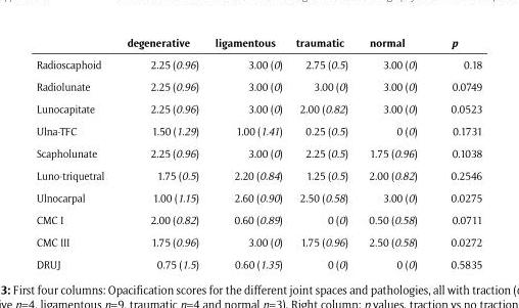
<table><thead><tr><td></td><td>degenerative</td><td>ligamentous</td><td>traumatic</td><td>normal</td><td>p</td></tr></thead><tbody><tr><td>Radioscaphoid</td><td>2.25 (0.96)</td><td>3.00 (0)</td><td>2.75 (0.5)</td><td>3.00 (0)</td><td>0.18</td></tr><tr><td>Radiolunate</td><td>2.25 (0.96)</td><td>3.00 (0)</td><td>3.00 (0)</td><td>3.00 (0)</td><td>0.0749</td></tr><tr><td>Lunocapitate</td><td>2.25 (0.96)</td><td>3.00 (0)</td><td>2.00 (0.82)</td><td>3.00 (0)</td><td>0.0523</td></tr><tr><td>Ulna-TFC</td><td>1.50 (1.29)</td><td>1.00 (1.41)</td><td>0.25 (0.5)</td><td>0 (0)</td><td>0.1731</td></tr><tr><td>Scapholunate</td><td>2.25 (0.96)</td><td>3.00 (0)</td><td>2.25 (0.5)</td><td>1.75 (0.96)</td><td>0.1038</td></tr><tr><td>Luno-triquetral</td><td>1.75 (0.5)</td><td>2.20 (0.84)</td><td>1.25 (0.5)</td><td>2.00 (0.82)</td><td>0.2546</td></tr><tr><td>Ulnocarpal</td><td>1.00 (1.15)</td><td>2.60 (0.90)</td><td>2.50 (0.58)</td><td>3.00 (0)</td><td>0.0275</td></tr><tr><td>CMC I</td><td>2.00 (0.82)</td><td>0.60 (0.89)</td><td>0 (0)</td><td>0.50 (0.58)</td><td>0.0711</td></tr><tr><td>CMC III</td><td>1.75 (0.96)</td><td>3.00 (0)</td><td>1.75 (0.96)</td><td>2.50 (0.58)</td><td>0.0272</td></tr><tr><td>DRUJ</td><td>0.75 (1.5)</td><td>0.60 (1.35)</td><td>0 (0)</td><td>0 (0)</td><td>0.5835</td></tr></tbody></table>